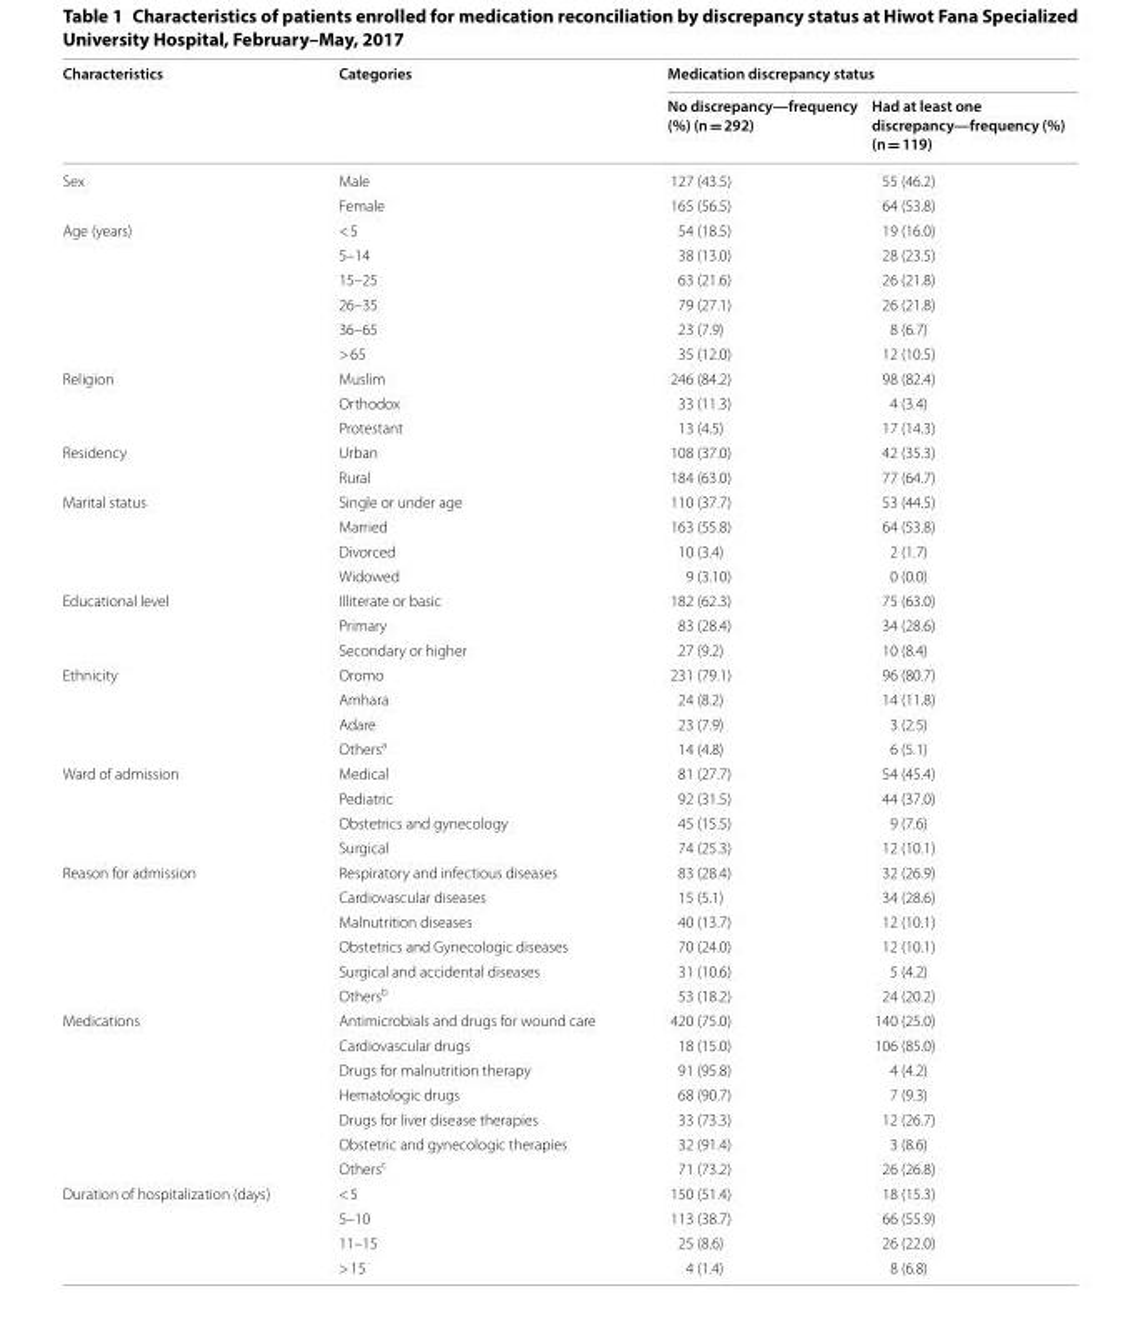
<table><thead><tr><td rowspan="2">Characteristics</td><td rowspan="2">Categories</td><td colspan="2">Medication discrepancy status</td></tr><tr><td>No discrepancy—frequency (%) (n = 292)</td><td>Had at least one discrepancy—frequency (%) (n = 119)</td></tr></thead><tbody><tr><td rowspan="2">Sex</td><td>Male</td><td>127 (43.5)</td><td>55 (46.2)</td></tr><tr><td>Female</td><td>165 (56.5)</td><td>64 (53.8)</td></tr><tr><td rowspan="6">Age (years)</td><td>&lt; 5</td><td>54 (18.5)</td><td>19 (16.0)</td></tr><tr><td>5–14</td><td>38 (13.0)</td><td>28 (23.5)</td></tr><tr><td>15–25</td><td>63 (21.6)</td><td>26 (21.8)</td></tr><tr><td>26–35</td><td>79 (27.1)</td><td>26 (21.8)</td></tr><tr><td>36–65</td><td>23 (7.9)</td><td>8 (6.7)</td></tr><tr><td>&gt; 65</td><td>35 (12.0)</td><td>12 (10.5)</td></tr><tr><td rowspan="3">Religion</td><td>Muslim</td><td>246 (84.2)</td><td>98 (82.4)</td></tr><tr><td>Orthodox</td><td>33 (11.3)</td><td>4 (3.4)</td></tr><tr><td>Protestant</td><td>13 (4.5)</td><td>17 (14.3)</td></tr><tr><td rowspan="2">Residency</td><td>Urban</td><td>108 (37.0)</td><td>42 (35.3)</td></tr><tr><td>Rural</td><td>184 (63.0)</td><td>77 (64.7)</td></tr><tr><td rowspan="4">Marital status</td><td>Single or under age</td><td>110 (37.7)</td><td>53 (44.5)</td></tr><tr><td>Married</td><td>163 (55.8)</td><td>64 (53.8)</td></tr><tr><td>Divorced</td><td>10 (3.4)</td><td>2 (1.7)</td></tr><tr><td>Widowed</td><td>9 (3.10)</td><td>0 (0.0)</td></tr><tr><td rowspan="3">Educational level</td><td>Illiterate or basic</td><td>182 (62.3)</td><td>75 (63.0)</td></tr><tr><td>Primary</td><td>83 (28.4)</td><td>34 (28.6)</td></tr><tr><td>Secondary or higher</td><td>27 (9.2)</td><td>10 (8.4)</td></tr><tr><td rowspan="4">Ethnicity</td><td>Oromo</td><td>231 (79.1)</td><td>96 (80.7)</td></tr><tr><td>Amhara</td><td>24 (8.2)</td><td>14 (11.8)</td></tr><tr><td>Adare</td><td>23 (7.9)</td><td>3 (2.5)</td></tr><tr><td>Others<sup>a</sup></td><td>14 (4.8)</td><td>6 (5.1)</td></tr><tr><td rowspan="4">Ward of admission</td><td>Medical</td><td>81 (27.7)</td><td>54 (45.4)</td></tr><tr><td>Pediatric</td><td>92 (31.5)</td><td>44 (37.0)</td></tr><tr><td>Obstetrics and gynecology</td><td>45 (15.5)</td><td>9 (7.6)</td></tr><tr><td>Surgical</td><td>74 (25.3)</td><td>12 (10.1)</td></tr><tr><td rowspan="6">Reason for admission</td><td>Respiratory and infectious diseases</td><td>83 (28.4)</td><td>32 (26.9)</td></tr><tr><td>Cardiovascular diseases</td><td>15 (5.1)</td><td>34 (28.6)</td></tr><tr><td>Malnutrition diseases</td><td>40 (13.7)</td><td>12 (10.1)</td></tr><tr><td>Obstetrics and Gynecologic diseases</td><td>70 (24.0)</td><td>12 (10.1)</td></tr><tr><td>Surgical and accidental diseases</td><td>31 (10.6)</td><td>5 (4.2)</td></tr><tr><td>Others<sup>b</sup></td><td>53 (18.2)</td><td>24 (20.2)</td></tr><tr><td rowspan="7">Medications</td><td>Antimicrobials and drugs for wound care</td><td>420 (75.0)</td><td>140 (25.0)</td></tr><tr><td>Cardiovascular drugs</td><td>18 (15.0)</td><td>106 (85.0)</td></tr><tr><td>Drugs for malnutrition therapy</td><td>91 (95.8)</td><td>4 (4.2)</td></tr><tr><td>Hematologic drugs</td><td>68 (90.7)</td><td>7 (9.3)</td></tr><tr><td>Drugs for liver disease therapies</td><td>33 (73.3)</td><td>12 (26.7)</td></tr><tr><td>Obstetric and gynecologic therapies</td><td>32 (91.4)</td><td>3 (8.6)</td></tr><tr><td>Others<sup>c</sup></td><td>71 (73.2)</td><td>26 (26.8)</td></tr><tr><td rowspan="4">Duration of hospitalization (days)</td><td>&lt; 5</td><td>150 (51.4)</td><td>18 (15.3)</td></tr><tr><td>5–10</td><td>113 (38.7)</td><td>66 (55.9)</td></tr><tr><td>11–15</td><td>25 (8.6)</td><td>26 (22.0)</td></tr><tr><td>&gt; 15</td><td>4 (1.4)</td><td>8 (6.8)</td></tr></tbody></table>